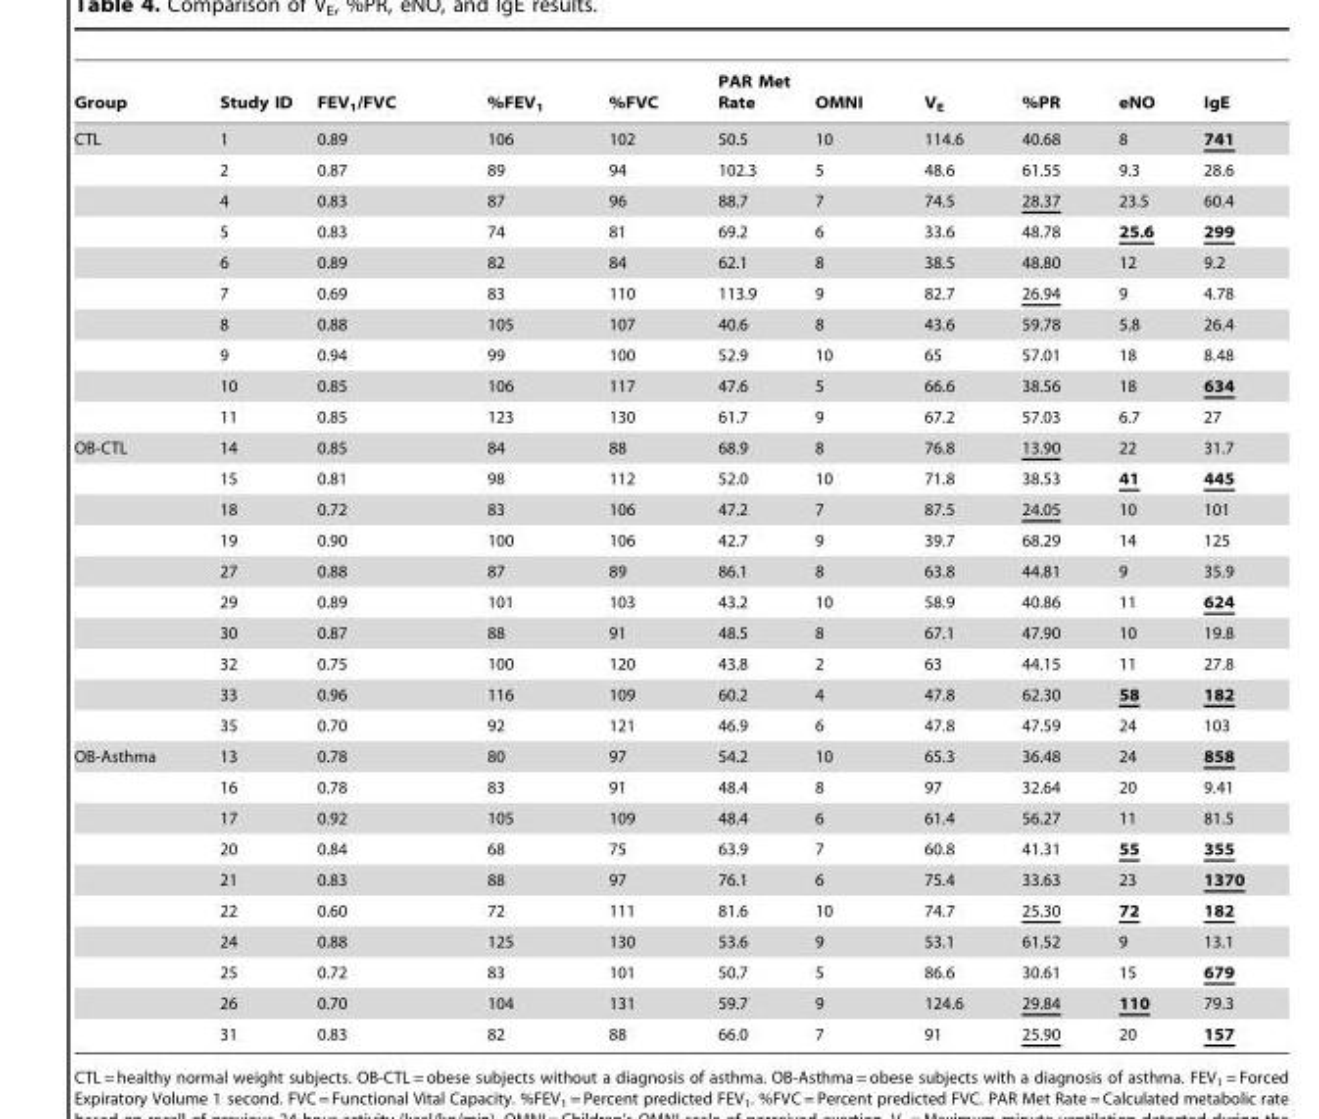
<table><thead><tr><td>Group</td><td>Study ID</td><td>FEV<sub>1</sub>/FVC</td><td>%FEV<sub>1</sub></td><td>%FVC</td><td>PAR Met Rate</td><td>OMNI</td><td>V<sub>E</sub></td><td>%PR</td><td>eNO</td><td>IgE</td></tr></thead><tbody><tr><td rowspan="10">CTL</td><td>1</td><td>0.89</td><td>106</td><td>102</td><td>50.5</td><td>10</td><td>114.6</td><td>40.68</td><td>8</td><td>741</td></tr><tr><td>2</td><td>0.87</td><td>89</td><td>94</td><td>102.3</td><td>5</td><td>48.6</td><td>61.55</td><td>9.3</td><td>28.6</td></tr><tr><td>4</td><td>0.83</td><td>87</td><td>96</td><td>88.7</td><td>7</td><td>74.5</td><td>28.37</td><td>23.5</td><td>60.4</td></tr><tr><td>5</td><td>0.83</td><td>74</td><td>81</td><td>69.2</td><td>6</td><td>33.6</td><td>48.78</td><td>25.6</td><td>299</td></tr><tr><td>6</td><td>0.89</td><td>82</td><td>84</td><td>62.1</td><td>8</td><td>38.5</td><td>48.80</td><td>12</td><td>9.2</td></tr><tr><td>7</td><td>0.69</td><td>83</td><td>110</td><td>113.9</td><td>9</td><td>82.7</td><td>26.94</td><td>9</td><td>4.78</td></tr><tr><td>8</td><td>0.88</td><td>105</td><td>107</td><td>40.6</td><td>8</td><td>43.6</td><td>59.78</td><td>5.8</td><td>26.4</td></tr><tr><td>9</td><td>0.94</td><td>99</td><td>100</td><td>52.9</td><td>10</td><td>65</td><td>57.01</td><td>18</td><td>8.48</td></tr><tr><td>10</td><td>0.85</td><td>106</td><td>117</td><td>47.6</td><td>5</td><td>66.6</td><td>38.56</td><td>18</td><td>634</td></tr><tr><td>11</td><td>0.85</td><td>123</td><td>130</td><td>61.7</td><td>9</td><td>67.2</td><td>57.03</td><td>6.7</td><td>27</td></tr><tr><td rowspan="10">OB-CTL</td><td>14</td><td>0.85</td><td>84</td><td>88</td><td>68.9</td><td>8</td><td>76.8</td><td>13.90</td><td>22</td><td>31.7</td></tr><tr><td>15</td><td>0.81</td><td>98</td><td>112</td><td>52.0</td><td>10</td><td>71.8</td><td>38.53</td><td>41</td><td>445</td></tr><tr><td>18</td><td>0.72</td><td>83</td><td>106</td><td>47.2</td><td>7</td><td>87.5</td><td>24.05</td><td>10</td><td>101</td></tr><tr><td>19</td><td>0.90</td><td>100</td><td>106</td><td>42.7</td><td>9</td><td>39.7</td><td>68.29</td><td>14</td><td>125</td></tr><tr><td>27</td><td>0.88</td><td>87</td><td>89</td><td>86.1</td><td>8</td><td>63.8</td><td>44.81</td><td>9</td><td>35.9</td></tr><tr><td>29</td><td>0.89</td><td>101</td><td>103</td><td>43.2</td><td>10</td><td>58.9</td><td>40.86</td><td>11</td><td>624</td></tr><tr><td>30</td><td>0.87</td><td>88</td><td>91</td><td>48.5</td><td>8</td><td>67.1</td><td>47.90</td><td>10</td><td>19.8</td></tr><tr><td>32</td><td>0.75</td><td>100</td><td>120</td><td>43.8</td><td>2</td><td>63</td><td>44.15</td><td>11</td><td>27.8</td></tr><tr><td>33</td><td>0.96</td><td>116</td><td>109</td><td>60.2</td><td>4</td><td>47.8</td><td>62.30</td><td>58</td><td>182</td></tr><tr><td>35</td><td>0.70</td><td>92</td><td>121</td><td>46.9</td><td>6</td><td>47.8</td><td>47.59</td><td>24</td><td>103</td></tr><tr><td rowspan="10">OB-Asthma</td><td>13</td><td>0.78</td><td>80</td><td>97</td><td>54.2</td><td>10</td><td>65.3</td><td>36.48</td><td>24</td><td>858</td></tr><tr><td>16</td><td>0.78</td><td>83</td><td>91</td><td>48.4</td><td>8</td><td>97</td><td>32.64</td><td>20</td><td>9.41</td></tr><tr><td>17</td><td>0.92</td><td>105</td><td>109</td><td>48.4</td><td>6</td><td>61.4</td><td>56.27</td><td>11</td><td>81.5</td></tr><tr><td>20</td><td>0.84</td><td>68</td><td>75</td><td>63.9</td><td>7</td><td>60.8</td><td>41.31</td><td>55</td><td>355</td></tr><tr><td>21</td><td>0.83</td><td>88</td><td>97</td><td>76.1</td><td>6</td><td>75.4</td><td>33.63</td><td>23</td><td>1370</td></tr><tr><td>22</td><td>0.60</td><td>72</td><td>111</td><td>81.6</td><td>10</td><td>74.7</td><td>25.30</td><td>72</td><td>182</td></tr><tr><td>24</td><td>0.88</td><td>125</td><td>130</td><td>53.6</td><td>9</td><td>53.1</td><td>61.52</td><td>9</td><td>13.1</td></tr><tr><td>25</td><td>0.72</td><td>83</td><td>101</td><td>50.7</td><td>5</td><td>86.6</td><td>30.61</td><td>15</td><td>679</td></tr><tr><td>26</td><td>0.70</td><td>104</td><td>131</td><td>59.7</td><td>9</td><td>124.6</td><td>29.84</td><td>110</td><td>79.3</td></tr><tr><td>31</td><td>0.83</td><td>82</td><td>88</td><td>66.0</td><td>7</td><td>91</td><td>25.90</td><td>20</td><td>157</td></tr></tbody></table>